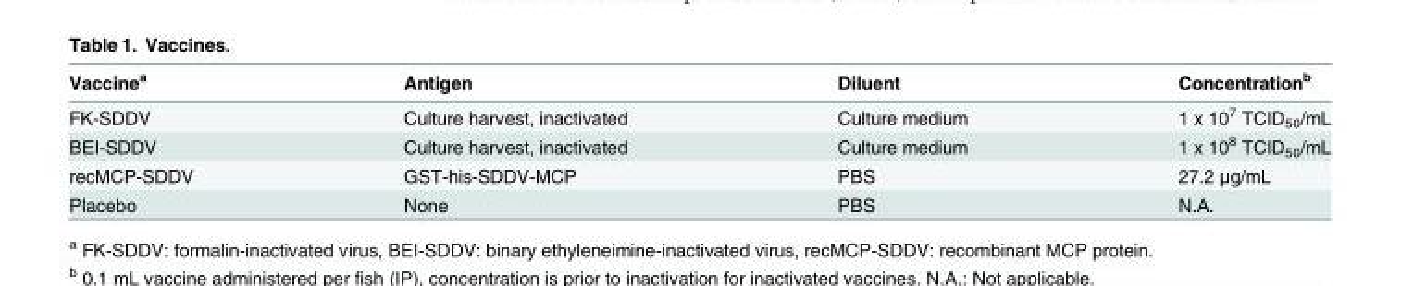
<table><thead><tr><td>Vaccine<sup>a</sup></td><td>Antigen</td><td>Diluent</td><td>Concentration<sup>b</sup></td></tr></thead><tbody><tr><td>FK-SDDV</td><td>Culture harvest, inactivated</td><td>Culture medium</td><td>1 x 10<sup>7</sup> TCID<sub>50</sub>/mL</td></tr><tr><td>BEI-SDDV</td><td>Culture harvest, inactivated</td><td>Culture medium</td><td>1 x 10<sup>8</sup> TCID<sub>50</sub>/mL</td></tr><tr><td>recMCP-SDDV</td><td>GST-his-SDDV-MCP</td><td>PBS</td><td>27.2 μg/mL</td></tr><tr><td>Placebo</td><td>None</td><td>PBS</td><td>N.A.</td></tr></tbody></table>